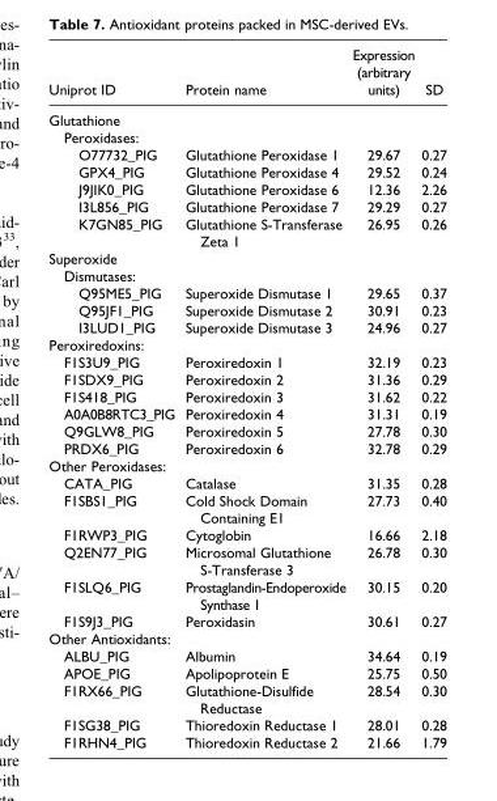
<table><thead><tr><td>Uniprot ID</td><td>Protein name</td><td>Expression (arbitrary units)</td><td>SD</td></tr></thead><tbody><tr><td colspan="4">Glutathione Peroxidases:</td></tr><tr><td>O77732_PIG</td><td>Glutathione Peroxidase 1</td><td>29.67</td><td>0.27</td></tr><tr><td>GPX4_PIG</td><td>Glutathione Peroxidase 4</td><td>29.52</td><td>0.24</td></tr><tr><td>J9JIK0_PIG</td><td>Glutathione Peroxidase 6</td><td>12.36</td><td>2.26</td></tr><tr><td>I3L856_PIG</td><td>Glutathione Peroxidase 7</td><td>29.29</td><td>0.27</td></tr><tr><td>K7GN85_PIG</td><td>Glutathione S-Transferase Zeta 1</td><td>26.95</td><td>0.26</td></tr><tr><td colspan="4">Superoxide Dismutases:</td></tr><tr><td>Q95ME5_PIG</td><td>Superoxide Dismutase 1</td><td>29.65</td><td>0.37</td></tr><tr><td>Q95JF1_PIG</td><td>Superoxide Dismutase 2</td><td>30.91</td><td>0.23</td></tr><tr><td>I3LUD1_PIG</td><td>Superoxide Dismutase 3</td><td>24.96</td><td>0.27</td></tr><tr><td colspan="4">Peroxiredoxins:</td></tr><tr><td>F1S3U9_PIG</td><td>Peroxiredoxin 1</td><td>32.19</td><td>0.23</td></tr><tr><td>F1SDX9_PIG</td><td>Peroxiredoxin 2</td><td>31.36</td><td>0.29</td></tr><tr><td>F1S418_PIG</td><td>Peroxiredoxin 3</td><td>31.62</td><td>0.22</td></tr><tr><td>A0A0B8RTC3_PIG</td><td>Peroxiredoxin 4</td><td>31.31</td><td>0.19</td></tr><tr><td>Q9GLW8_PIG</td><td>Peroxiredoxin 5</td><td>27.78</td><td>0.30</td></tr><tr><td>PRDX6_PIG</td><td>Peroxiredoxin 6</td><td>32.78</td><td>0.29</td></tr><tr><td colspan="4">Other Peroxidases:</td></tr><tr><td>CATA_PIG</td><td>Catalase</td><td>31.35</td><td>0.28</td></tr><tr><td>F1SBS1_PIG</td><td>Cold Shock Domain Containing E1</td><td>27.73</td><td>0.40</td></tr><tr><td>F1RWP3_PIG</td><td>Cytoglobin</td><td>16.66</td><td>2.18</td></tr><tr><td>Q2EN77_PIG</td><td>Microsomal Glutathione S-Transferase 3</td><td>26.78</td><td>0.30</td></tr><tr><td>F1SLQ6_PIG</td><td>Prostaglandin-Endoperoxide Synthase 1</td><td>30.15</td><td>0.20</td></tr><tr><td>F1S9J3_PIG</td><td>Peroxidasin</td><td>30.61</td><td>0.27</td></tr><tr><td colspan="4">Other Antioxidants:</td></tr><tr><td>ALBU_PIG</td><td>Albumin</td><td>34.64</td><td>0.19</td></tr><tr><td>APOE_PIG</td><td>Apolipoprotein E</td><td>25.75</td><td>0.50</td></tr><tr><td>F1RX66_PIG</td><td>Glutathione-Disulfide Reductase</td><td>28.54</td><td>0.30</td></tr><tr><td>F1SG38_PIG</td><td>Thioredoxin Reductase 1</td><td>28.01</td><td>0.28</td></tr><tr><td>F1RHN4_PIG</td><td>Thioredoxin Reductase 2</td><td>21.66</td><td>1.79</td></tr></tbody></table>